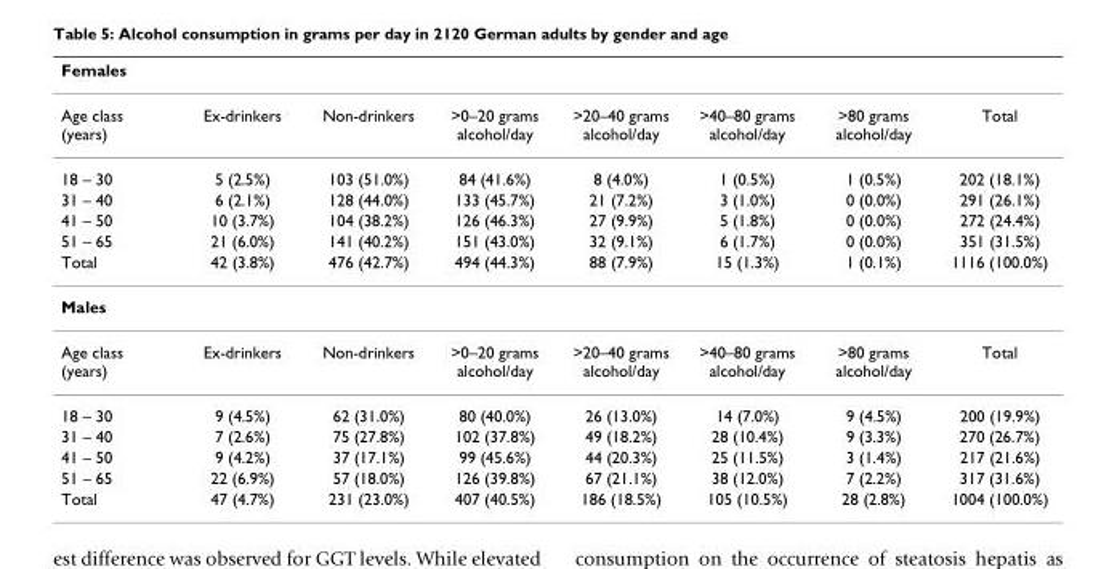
<table><thead><tr><td colspan="8">Females</td></tr><tr><td>Age class (years)</td><td>Ex-drinkers</td><td>Non-drinkers</td><td>&gt;0–20 grams alcohol/day</td><td>&gt;20–40 grams alcohol/day</td><td>&gt;40–80 grams alcohol/day</td><td>&gt;80 grams alcohol/day</td><td>Total</td></tr></thead><tbody><tr><td>18 – 30</td><td>5 (2.5%)</td><td>103 (51.0%)</td><td>84 (41.6%)</td><td>8 (4.0%)</td><td>1 (0.5%)</td><td>1 (0.5%)</td><td>202 (18.1%)</td></tr><tr><td>31 – 40</td><td>6 (2.1%)</td><td>128 (44.0%)</td><td>133 (45.7%)</td><td>21 (7.2%)</td><td>3 (1.0%)</td><td>0 (0.0%)</td><td>291 (26.1%)</td></tr><tr><td>41 – 50</td><td>10 (3.7%)</td><td>104 (38.2%)</td><td>126 (46.3%)</td><td>27 (9.9%)</td><td>5 (1.8%)</td><td>0 (0.0%)</td><td>272 (24.4%)</td></tr><tr><td>51 – 65</td><td>21 (6.0%)</td><td>141 (40.2%)</td><td>151 (43.0%)</td><td>32 (9.1%)</td><td>6 (1.7%)</td><td>0 (0.0%)</td><td>351 (31.5%)</td></tr><tr><td>Total</td><td>42 (3.8%)</td><td>476 (42.7%)</td><td>494 (44.3%)</td><td>88 (7.9%)</td><td>15 (1.3%)</td><td>1 (0.1%)</td><td>1116 (100.0%)</td></tr><tr><td colspan="8">Males</td></tr><tr><td>Age class (years)</td><td>Ex-drinkers</td><td>Non-drinkers</td><td>&gt;0–20 grams alcohol/day</td><td>&gt;20–40 grams alcohol/day</td><td>&gt;40–80 grams alcohol/day</td><td>&gt;80 grams alcohol/day</td><td>Total</td></tr><tr><td>18 – 30</td><td>9 (4.5%)</td><td>62 (31.0%)</td><td>80 (40.0%)</td><td>26 (13.0%)</td><td>14 (7.0%)</td><td>9 (4.5%)</td><td>200 (19.9%)</td></tr><tr><td>31 – 40</td><td>7 (2.6%)</td><td>75 (27.8%)</td><td>102 (37.8%)</td><td>49 (18.2%)</td><td>28 (10.4%)</td><td>9 (3.3%)</td><td>270 (26.7%)</td></tr><tr><td>41 – 50</td><td>9 (4.2%)</td><td>37 (17.1%)</td><td>99 (45.6%)</td><td>44 (20.3%)</td><td>25 (11.5%)</td><td>3 (1.4%)</td><td>217 (21.6%)</td></tr><tr><td>51 – 65</td><td>22 (6.9%)</td><td>57 (18.0%)</td><td>126 (39.8%)</td><td>67 (21.1%)</td><td>38 (12.0%)</td><td>7 (2.2%)</td><td>317 (31.6%)</td></tr><tr><td>Total</td><td>47 (4.7%)</td><td>231 (23.0%)</td><td>407 (40.5%)</td><td>186 (18.5%)</td><td>105 (10.5%)</td><td>28 (2.8%)</td><td>1004 (100.0%)</td></tr></tbody></table>